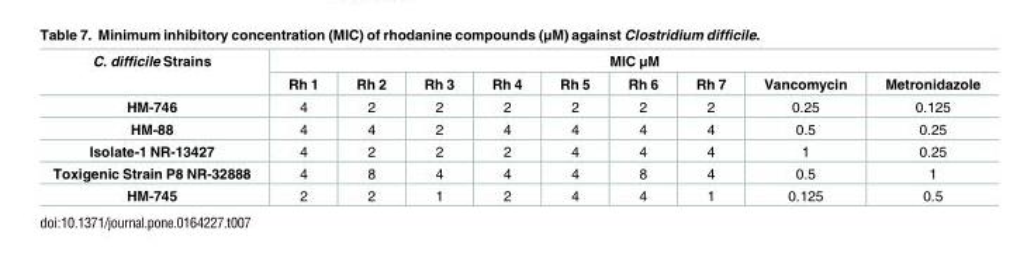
<table><thead><tr><td rowspan="2">C. difficile Strains</td><td colspan="9">MIC μM</td></tr><tr><td>Rh 1</td><td>Rh 2</td><td>Rh 3</td><td>Rh 4</td><td>Rh 5</td><td>Rh 6</td><td>Rh 7</td><td>Vancomycin</td><td>Metronidazole</td></tr></thead><tbody><tr><td>HM-746</td><td>4</td><td>2</td><td>2</td><td>2</td><td>2</td><td>2</td><td>2</td><td>0.25</td><td>0.125</td></tr><tr><td>HM-88</td><td>4</td><td>4</td><td>2</td><td>4</td><td>4</td><td>4</td><td>4</td><td>0.5</td><td>0.25</td></tr><tr><td>Isolate-1 NR-13427</td><td>4</td><td>2</td><td>2</td><td>2</td><td>4</td><td>4</td><td>4</td><td>1</td><td>0.25</td></tr><tr><td>Toxigenic Strain P8 NR-32888</td><td>4</td><td>8</td><td>4</td><td>4</td><td>4</td><td>8</td><td>4</td><td>0.5</td><td>1</td></tr><tr><td>HM-745</td><td>2</td><td>2</td><td>1</td><td>2</td><td>4</td><td>4</td><td>1</td><td>0.125</td><td>0.5</td></tr></tbody></table>